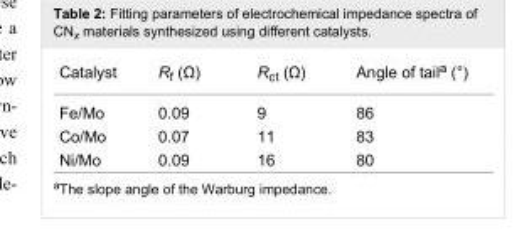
<table><tbody><tr><td>Catalyst</td><td>R<sub>f</sub> (Ω)</td><td>R<sub>ct</sub> (Ω)</td><td>Angle of tail<sup>a</sup> (°)</td></tr><tr><td>Fe/Mo</td><td>0.09</td><td>9</td><td>86</td></tr><tr><td>Co/Mo</td><td>0.07</td><td>11</td><td>83</td></tr><tr><td>Ni/Mo</td><td>0.09</td><td>16</td><td>80</td></tr></tbody></table>